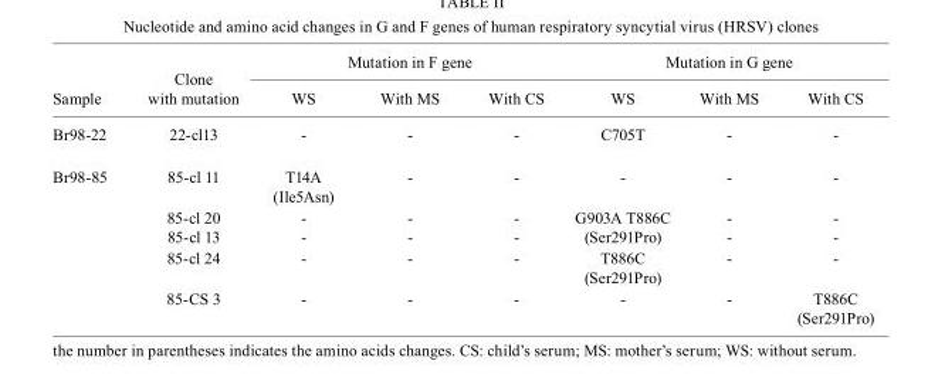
<table><thead><tr><td rowspan="2">Sample</td><td rowspan="2">Clone with mutation</td><td colspan="3">Mutation in F gene</td><td colspan="3">Mutation in G gene</td></tr><tr><td>WS</td><td>With MS</td><td>With CS</td><td>WS</td><td>With MS</td><td>With CS</td></tr></thead><tbody><tr><td>Br98-22</td><td>22-cl13</td><td>-</td><td>-</td><td>-</td><td>C705T</td><td>-</td><td>-</td></tr><tr><td rowspan="4">Br98-85</td><td>85-cl 11</td><td>T14A (Ile5Asn)</td><td>-</td><td>-</td><td>-</td><td>-</td><td>-</td></tr><tr><td>85-cl 20 85-cl 13</td><td>- -</td><td>- -</td><td>- -</td><td>G903A T886C (Ser291Pro)</td><td>- -</td><td>- -</td></tr><tr><td>85-cl 24</td><td>-</td><td>-</td><td>-</td><td>T886C (Ser291Pro)</td><td>-</td><td>-</td></tr><tr><td>85-CS 3</td><td>-</td><td>-</td><td>-</td><td>-</td><td>-</td><td>T886C (Ser291Pro)</td></tr></tbody></table>